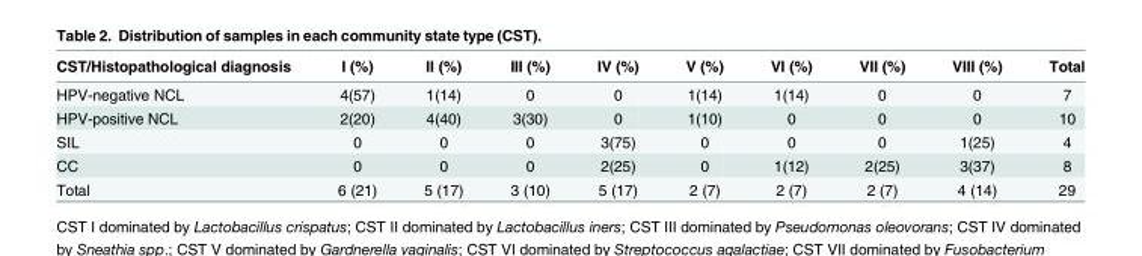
<table><thead><tr><td>CST/Histopathological diagnosis</td><td>I (%)</td><td>II (%)</td><td>III (%)</td><td>IV (%)</td><td>V (%)</td><td>VI (%)</td><td>VII (%)</td><td>VIII (%)</td><td>Total</td></tr></thead><tbody><tr><td>HPV-negative NCL</td><td>4(57)</td><td>1(14)</td><td>0</td><td>0</td><td>1(14)</td><td>1(14)</td><td>0</td><td>0</td><td>7</td></tr><tr><td>HPV-positive NCL</td><td>2(20)</td><td>4(40)</td><td>3(30)</td><td>0</td><td>1(10)</td><td>0</td><td>0</td><td>0</td><td>10</td></tr><tr><td>SIL</td><td>0</td><td>0</td><td>0</td><td>3(75)</td><td>0</td><td>0</td><td>0</td><td>1(25)</td><td>4</td></tr><tr><td>CC</td><td>0</td><td>0</td><td>0</td><td>2(25)</td><td>0</td><td>1(12)</td><td>2(25)</td><td>3(37)</td><td>8</td></tr><tr><td>Total</td><td>6 (21)</td><td>5 (17)</td><td>3 (10)</td><td>5 (17)</td><td>2 (7)</td><td>2 (7)</td><td>2 (7)</td><td>4 (14)</td><td>29</td></tr></tbody></table>